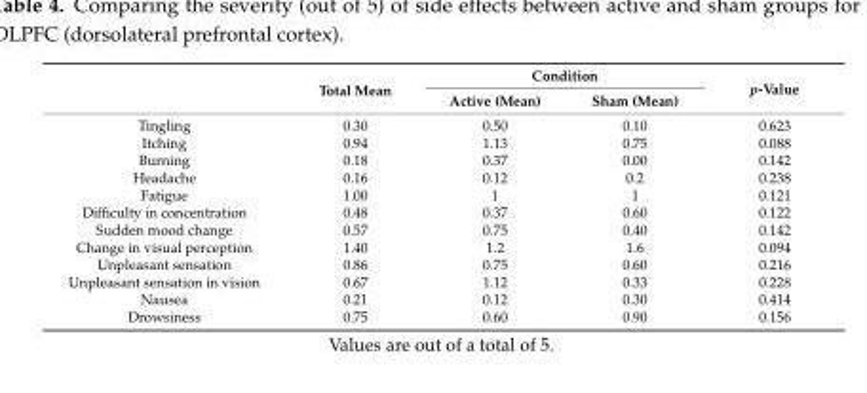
<table><thead><tr><td rowspan="2"></td><td rowspan="2">Total Mean</td><td colspan="2">Condition</td><td rowspan="2">p-Value</td></tr><tr><td>Active (Mean)</td><td>Sham (Mean)</td></tr></thead><tbody><tr><td>Tingling</td><td>0.30</td><td>0.50</td><td>0.10</td><td>0.623</td></tr><tr><td>Itching</td><td>0.94</td><td>1.13</td><td>0.75</td><td>0.088</td></tr><tr><td>Burning</td><td>0.18</td><td>0.37</td><td>0.00</td><td>0.142</td></tr><tr><td>Headache</td><td>0.16</td><td>0.12</td><td>0.2</td><td>0.238</td></tr><tr><td>Fatigue</td><td>1.00</td><td>1</td><td>1</td><td>0.121</td></tr><tr><td>Difficulty in concentration</td><td>0.48</td><td>0.37</td><td>0.60</td><td>0.122</td></tr><tr><td>Sudden mood change</td><td>0.57</td><td>0.75</td><td>0.40</td><td>0.142</td></tr><tr><td>Change in visual perception</td><td>1.40</td><td>1.2</td><td>1.6</td><td>0.094</td></tr><tr><td>Unpleasant sensation</td><td>0.86</td><td>0.75</td><td>0.60</td><td>0.216</td></tr><tr><td>Unpleasant sensation in vision</td><td>0.67</td><td>1.12</td><td>0.33</td><td>0.228</td></tr><tr><td>Nausea</td><td>0.21</td><td>0.12</td><td>0.30</td><td>0.414</td></tr><tr><td>Drowsiness</td><td>0.75</td><td>0.60</td><td>0.90</td><td>0.156</td></tr></tbody></table>